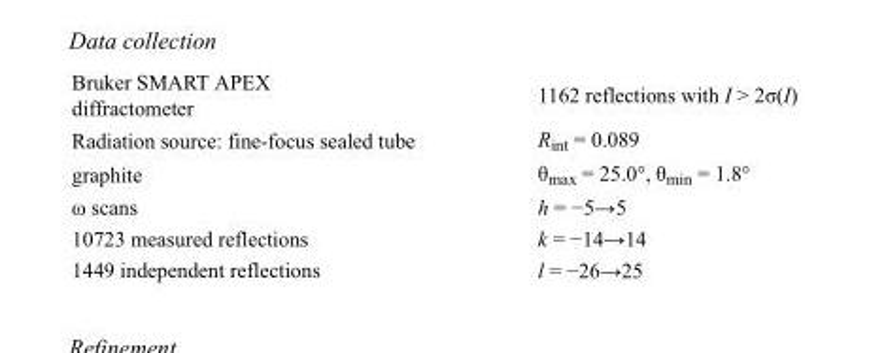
<table><tbody><tr><td>Bruker SMART APEX diffractometer</td><td>1162 reflections with I &gt; 2σ(I)</td></tr><tr><td>Radiation source: fine-focus sealed tube</td><td>R<sub>int</sub> = 0.089</td></tr><tr><td>graphite</td><td>θ<sub>max</sub> = 25.0°, θ<sub>min</sub> = 1.8°</td></tr><tr><td>ω scans</td><td>h = −5→5</td></tr><tr><td>10723 measured reflections</td><td>k = −14→14</td></tr><tr><td>1449 independent reflections</td><td>l = −26→25</td></tr></tbody></table>